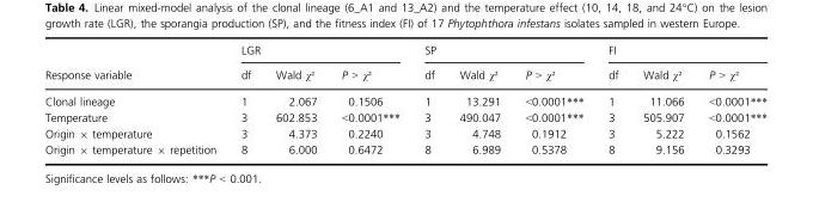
<table><thead><tr><td rowspan="2">Response variable</td><td colspan="3">LGR</td><td colspan="3">SP</td><td colspan="3">FI</td></tr><tr><td>df</td><td>Wald χ²</td><td>P &gt; χ²</td><td>df</td><td>Wald χ²</td><td>P &gt; χ²</td><td>df</td><td>Wald χ²</td><td>P &gt; χ²</td></tr></thead><tbody><tr><td>Clonal lineage</td><td>1</td><td>2.067</td><td>0.1506</td><td>1</td><td>13.291</td><td>&lt;0.0001***</td><td>1</td><td>11.066</td><td>&lt;0.0001***</td></tr><tr><td>Temperature</td><td>3</td><td>602.853</td><td>&lt;0.0001***</td><td>3</td><td>490.047</td><td>&lt;0.0001***</td><td>3</td><td>505.907</td><td>&lt;0.0001***</td></tr><tr><td>Origin × temperature</td><td>3</td><td>4.373</td><td>0.2240</td><td>3</td><td>4.748</td><td>0.1912</td><td>3</td><td>5.222</td><td>0.1562</td></tr><tr><td>Origin × temperature × repetition</td><td>8</td><td>6.000</td><td>0.6472</td><td>8</td><td>6.989</td><td>0.5378</td><td>8</td><td>9.156</td><td>0.3293</td></tr></tbody></table>